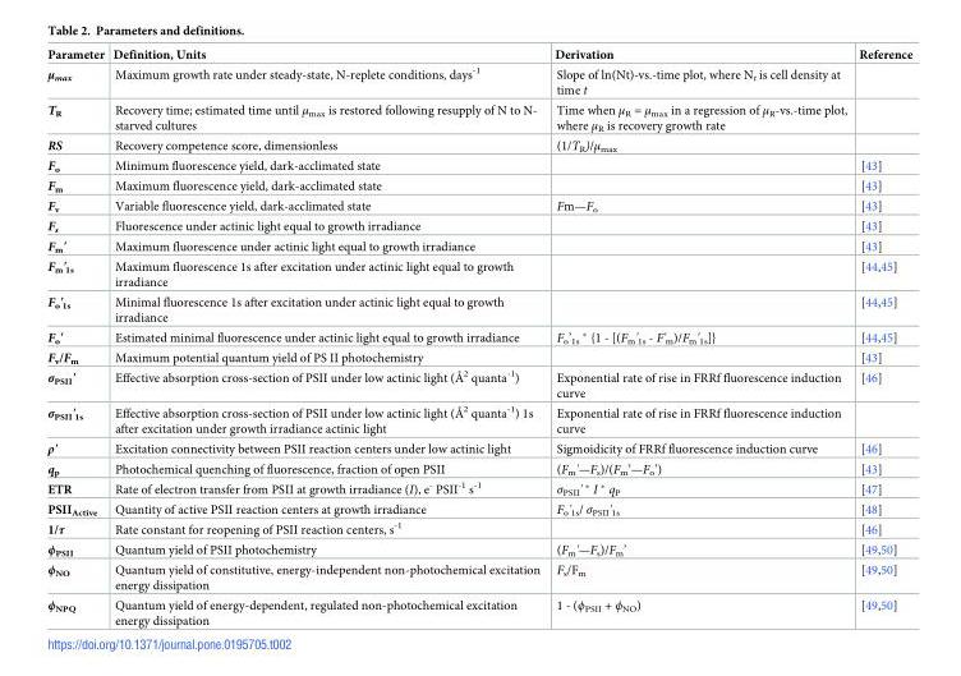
<table><thead><tr><td>Parameter</td><td>Definition, Units</td><td>Derivation</td><td>Reference</td></tr></thead><tbody><tr><td>μ<sub>max</sub></td><td>Maximum growth rate under steady-state, N-replete conditions, days<sup>-1</sup></td><td>Slope of ln(Nt)-vs.-time plot, where N<sub>t</sub> is cell density at time t</td><td></td></tr><tr><td>T<sub>R</sub></td><td>Recovery time; estimated time until μ<sub>max</sub> is restored following resupply of N to N- starved cultures</td><td>Time when μ<sub>R</sub> = μ<sub>max</sub> in a regression of μ<sub>R</sub>-vs.-time plot, where μ<sub>R</sub> is recovery growth rate</td><td></td></tr><tr><td>RS</td><td>Recovery competence score, dimensionless</td><td>(1/T<sub>R</sub>)/μ<sub>max</sub></td><td></td></tr><tr><td>F<sub>o</sub></td><td>Minimum fluorescence yield, dark-acclimated state</td><td></td><td>[43]</td></tr><tr><td>F<sub>m</sub></td><td>Maximum fluorescence yield, dark-acclimated state</td><td></td><td>[43]</td></tr><tr><td>F<sub>v</sub></td><td>Variable fluorescence yield, dark-acclimated state</td><td>Fm—F<sub>o</sub></td><td>[43]</td></tr><tr><td>F<sub>s</sub></td><td>Fluorescence under actinic light equal to growth irradiance</td><td></td><td>[43]</td></tr><tr><td>F<sub>m</sub>&#x27;</td><td>Maximum fluorescence under actinic light equal to growth irradiance</td><td></td><td>[43]</td></tr><tr><td>F<sub>m</sub>&#x27;<sub>1s</sub></td><td>Maximum fluorescence 1s after excitation under actinic light equal to growth irradiance</td><td></td><td>[44,45]</td></tr><tr><td>F<sub>o</sub>&#x27;<sub>1s</sub></td><td>Minimal fluorescence 1s after excitation under actinic light equal to growth irradiance</td><td></td><td>[44,45]</td></tr><tr><td>F<sub>o</sub>&#x27;</td><td>Estimated minimal fluorescence under actinic light equal to growth irradiance</td><td>F<sub>o</sub>’<sub>1s</sub> * {1 - [(F<sub>m</sub>&#x27;<sub>1s</sub> - F&#x27;<sub>m</sub>)/F<sub>m</sub>&#x27;<sub>1s</sub>]}</td><td>[44,45]</td></tr><tr><td>F<sub>v</sub>/F<sub>m</sub></td><td>Maximum potential quantum yield of PS II photochemistry</td><td></td><td>[43]</td></tr><tr><td>σ<sub>PSII</sub>&#x27;</td><td>Effective absorption cross-section of PSII under low actinic light (Å<sup>2</sup> quanta<sup>-1</sup>)</td><td>Exponential rate of rise in FRRf fluorescence induction curve</td><td>[46]</td></tr><tr><td>σ<sub>PSII</sub>&#x27;<sub>1s</sub></td><td>Effective absorption cross-section of PSII under low actinic light (Å<sup>2</sup> quanta<sup>-1</sup>) 1s after excitation under growth irradiance actinic light</td><td>Exponential rate of rise in FRRf fluorescence induction curve</td><td></td></tr><tr><td>ρ&#x27;</td><td>Excitation connectivity between PSII reaction centers under low actinic light</td><td>Sigmoidicity of FRRf fluorescence induction curve</td><td>[46]</td></tr><tr><td>q<sub>p</sub></td><td>Photochemical quenching of fluorescence, fraction of open PSII</td><td>(F<sub>m</sub>&#x27;—F<sub>s</sub>)/(F<sub>m</sub>’—F<sub>o</sub>’)</td><td>[43]</td></tr><tr><td>ETR</td><td>Rate of electron transfer from PSII at growth irradiance (I), e<sup>-</sup> PSII<sup>-1</sup> s<sup>-1</sup></td><td>σ<sub>PSII</sub>&#x27; * I * q<sub>P</sub></td><td>[47]</td></tr><tr><td>PSII<sub>Active</sub></td><td>Quantity of active PSII reaction centers at growth irradiance</td><td>F<sub>o</sub>&#x27;<sub>1s</sub>/ σ<sub>PSII</sub>&#x27;<sub>1s</sub></td><td>[48]</td></tr><tr><td>1/τ</td><td>Rate constant for reopening of PSII reaction centers, s<sup>-1</sup></td><td></td><td>[46]</td></tr><tr><td>ϕ<sub>PSII</sub></td><td>Quantum yield of PSII photochemistry</td><td>(F<sub>m</sub>&#x27;—F<sub>s</sub>)/F<sub>m</sub>’</td><td>[49,50]</td></tr><tr><td>ϕ<sub>NO</sub></td><td>Quantum yield of constitutive, energy-independent non-photochemical excitation energy dissipation</td><td>F<sub>s</sub>/F<sub>m</sub></td><td>[49,50]</td></tr><tr><td>ϕ<sub>NPQ</sub></td><td>Quantum yield of energy-dependent, regulated non-photochemical excitation energy dissipation</td><td>1 - (ϕ<sub>PSII</sub> + ϕ<sub>NO</sub>)</td><td>[49,50]</td></tr></tbody></table>